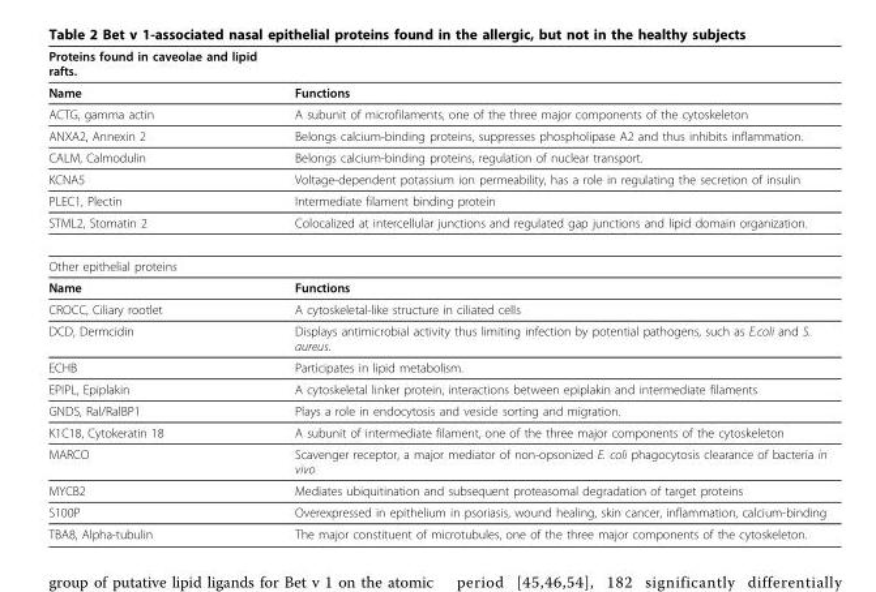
<table><thead><tr><td>Proteins found in caveolae and lipid rafts.</td><td></td></tr></thead><tbody><tr><td>Name</td><td>Functions</td></tr><tr><td>ACTG, gamma actin</td><td>A subunit of microfilaments, one of the three major components of the cytoskeleton</td></tr><tr><td>ANXA2, Annexin 2</td><td>Belongs calcium-binding proteins, suppresses phospholipase A2 and thus inhibits inflammation.</td></tr><tr><td>CALM, Calmodulin</td><td>Belongs calcium-binding proteins, regulation of nuclear transport.</td></tr><tr><td>KCNA5</td><td>Voltage-dependent potassium ion permeability, has a role in regulating the secretion of insulin</td></tr><tr><td>PLEC1, Plectin</td><td>Intermediate filament binding protein</td></tr><tr><td>STML2, Stomatin 2</td><td>Colocalized at intercellular junctions and regulated gap junctions and lipid domain organization.</td></tr><tr><td colspan="2">Other epithelial proteins</td></tr><tr><td>Name</td><td>Functions</td></tr><tr><td>CROCC, Ciliary rootlet</td><td>A cytoskeletal-like structure in ciliated cells</td></tr><tr><td>DCD, Dermcidin</td><td>Displays antimicrobial activity thus limiting infection by potential pathogens, such as E.coli and S. aureus.</td></tr><tr><td>ECHB</td><td>Participates in lipid metabolism.</td></tr><tr><td>EPIPL, Epiplakin</td><td>A cytoskeletal linker protein, interactions between epiplakin and intermediate filaments</td></tr><tr><td>GNDS, Ral/RalBP1</td><td>Plays a role in endocytosis and vesicle sorting and migration.</td></tr><tr><td>K1C18, Cytokeratin 18</td><td>A subunit of intermediate filament, one of the three major components of the cytoskeleton</td></tr><tr><td>MARCO</td><td>Scavenger receptor, a major mediator of non-opsonized E. coli phagocytosis clearance of bacteria in vivo</td></tr><tr><td>MYCB2</td><td>Mediates ubiquitination and subsequent proteasomal degradation of target proteins</td></tr><tr><td>S100P</td><td>Overexpressed in epithelium in psoriasis, wound healing, skin cancer, inflammation, calcium-binding</td></tr><tr><td>TBA8, Alpha-tubulin</td><td>The major constituent of microtubules, one of the three major components of the cytoskeleton.</td></tr></tbody></table>